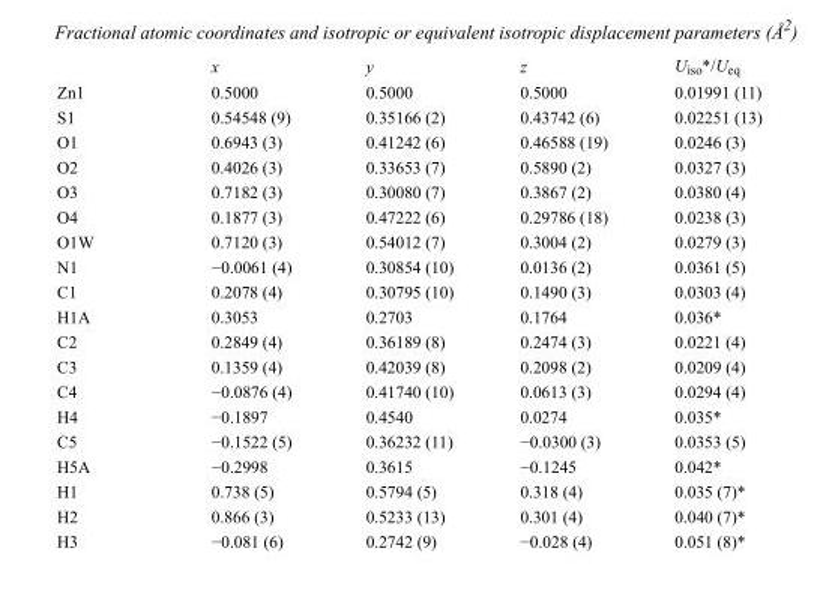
<table><thead><tr><td></td><td>x</td><td>y</td><td>z</td><td>U<sub>iso</sub>*/U<sub>eq</sub></td></tr></thead><tbody><tr><td>Zn1</td><td>0.5000</td><td>0.5000</td><td>0.5000</td><td>0.01991 (11)</td></tr><tr><td>S1</td><td>0.54548 (9)</td><td>0.35166 (2)</td><td>0.43742 (6)</td><td>0.02251 (13)</td></tr><tr><td>O1</td><td>0.6943 (3)</td><td>0.41242 (6)</td><td>0.46588 (19)</td><td>0.0246 (3)</td></tr><tr><td>O2</td><td>0.4026 (3)</td><td>0.33653 (7)</td><td>0.5890 (2)</td><td>0.0327 (3)</td></tr><tr><td>O3</td><td>0.7182 (3)</td><td>0.30080 (7)</td><td>0.3867 (2)</td><td>0.0380 (4)</td></tr><tr><td>O4</td><td>0.1877 (3)</td><td>0.47222 (6)</td><td>0.29786 (18)</td><td>0.0238 (3)</td></tr><tr><td>O1W</td><td>0.7120 (3)</td><td>0.54012 (7)</td><td>0.3004 (2)</td><td>0.0279 (3)</td></tr><tr><td>N1</td><td>−0.0061 (4)</td><td>0.30854 (10)</td><td>0.0136 (2)</td><td>0.0361 (5)</td></tr><tr><td>C1</td><td>0.2078 (4)</td><td>0.30795 (10)</td><td>0.1490 (3)</td><td>0.0303 (4)</td></tr><tr><td>H1A</td><td>0.3053</td><td>0.2703</td><td>0.1764</td><td>0.036*</td></tr><tr><td>C2</td><td>0.2849 (4)</td><td>0.36189 (8)</td><td>0.2474 (3)</td><td>0.0221 (4)</td></tr><tr><td>C3</td><td>0.1359 (4)</td><td>0.42039 (8)</td><td>0.2098 (2)</td><td>0.0209 (4)</td></tr><tr><td>C4</td><td>−0.0876 (4)</td><td>0.41740 (10)</td><td>0.0613 (3)</td><td>0.0294 (4)</td></tr><tr><td>H4</td><td>−0.1897</td><td>0.4540</td><td>0.0274</td><td>0.035*</td></tr><tr><td>C5</td><td>−0.1522 (5)</td><td>0.36232 (11)</td><td>−0.0300 (3)</td><td>0.0353 (5)</td></tr><tr><td>H5A</td><td>−0.2998</td><td>0.3615</td><td>−0.1245</td><td>0.042*</td></tr><tr><td>H1</td><td>0.738 (5)</td><td>0.5794 (5)</td><td>0.318 (4)</td><td>0.035 (7)*</td></tr><tr><td>H2</td><td>0.866 (3)</td><td>0.5233 (13)</td><td>0.301 (4)</td><td>0.040 (7)*</td></tr><tr><td>H3</td><td>−0.081 (6)</td><td>0.2742 (9)</td><td>−0.028 (4)</td><td>0.051 (8)*</td></tr></tbody></table>